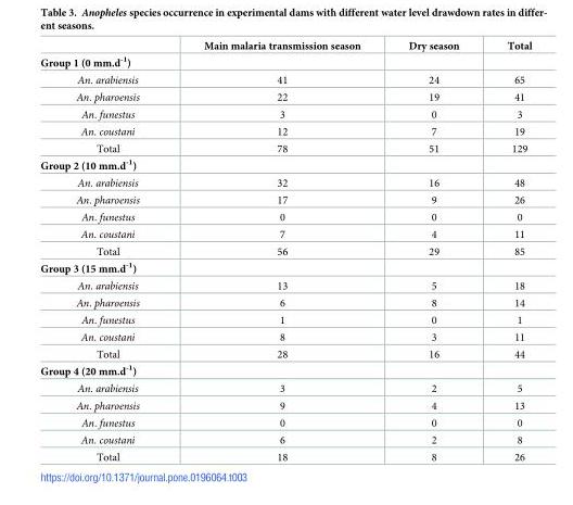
<table><thead><tr><td></td><td>Main malaria transmission season</td><td>Dry season</td><td>Total</td></tr></thead><tbody><tr><td colspan="4">Group 1 (0 mm.d<sup>-1</sup>)</td></tr><tr><td>An. arabiensis</td><td>41</td><td>24</td><td>65</td></tr><tr><td>An. pharoensis</td><td>22</td><td>19</td><td>41</td></tr><tr><td>An. funestus</td><td>3</td><td>0</td><td>3</td></tr><tr><td>An. coustani</td><td>12</td><td>7</td><td>19</td></tr><tr><td>Total</td><td>78</td><td>51</td><td>129</td></tr><tr><td colspan="4">Group 2 (10 mm.d<sup>-1</sup>)</td></tr><tr><td>An. arabiensis</td><td>32</td><td>16</td><td>48</td></tr><tr><td>An. pharoensis</td><td>17</td><td>9</td><td>26</td></tr><tr><td>An. funestus</td><td>0</td><td>0</td><td>0</td></tr><tr><td>An. coustani</td><td>7</td><td>4</td><td>11</td></tr><tr><td>Total</td><td>56</td><td>29</td><td>85</td></tr><tr><td colspan="4">Group 3 (15 mm.d<sup>-1</sup>)</td></tr><tr><td>An. arabiensis</td><td>13</td><td>5</td><td>18</td></tr><tr><td>An. pharoensis</td><td>6</td><td>8</td><td>14</td></tr><tr><td>An. funestus</td><td>1</td><td>0</td><td>1</td></tr><tr><td>An. coustani</td><td>8</td><td>3</td><td>11</td></tr><tr><td>Total</td><td>28</td><td>16</td><td>44</td></tr><tr><td colspan="4">Group 4 (20 mm.d<sup>-1</sup>)</td></tr><tr><td>An. arabiensis</td><td>3</td><td>2</td><td>5</td></tr><tr><td>An. pharoensis</td><td>9</td><td>4</td><td>13</td></tr><tr><td>An. funestus</td><td>0</td><td>0</td><td>0</td></tr><tr><td>An. coustani</td><td>6</td><td>2</td><td>8</td></tr><tr><td>Total</td><td>18</td><td>8</td><td>26</td></tr></tbody></table>